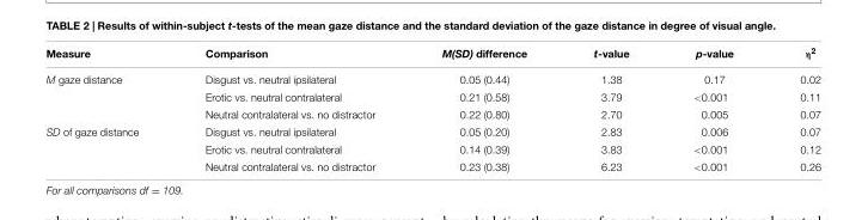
<table><thead><tr><td>Measure</td><td>Comparison</td><td>M(SD) difference</td><td>t-value</td><td>p-value</td><td>η<sup>2</sup></td></tr></thead><tbody><tr><td rowspan="3">M gaze distance</td><td>Disgust vs. neutral ipsilateral</td><td>0.05 (0.44)</td><td>1.38</td><td>0.17</td><td>0.02</td></tr><tr><td>Erotic vs. neutral contralateral</td><td>0.21 (0.58)</td><td>3.79</td><td>&lt;0.001</td><td>0.11</td></tr><tr><td>Neutral contralateral vs. no distractor</td><td>0.22 (0.80)</td><td>2.70</td><td>0.005</td><td>0.07</td></tr><tr><td rowspan="3">SD of gaze distance</td><td>Disgust vs. neutral ipsilateral</td><td>0.05 (0.20)</td><td>2.83</td><td>0.006</td><td>0.07</td></tr><tr><td>Erotic vs. neutral contralateral</td><td>0.14 (0.39)</td><td>3.83</td><td>&lt;0.001</td><td>0.12</td></tr><tr><td>Neutral contralateral vs. no distractor</td><td>0.23 (0.38)</td><td>6.23</td><td>&lt;0.001</td><td>0.26</td></tr></tbody></table>